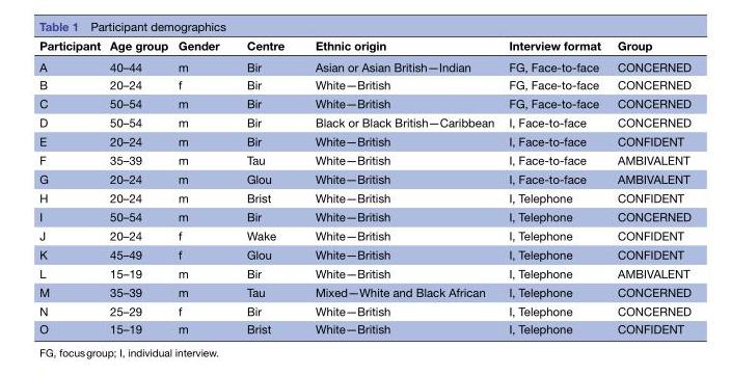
<table><thead><tr><td>Participant</td><td>Age group</td><td>Gender</td><td>Centre</td><td>Ethnic origin</td><td>Interview format</td><td>Group</td></tr></thead><tbody><tr><td>A</td><td>40–44</td><td>m</td><td>Bir</td><td>Asian or Asian British—Indian</td><td>FG, Face-to-face</td><td>CONCERNED</td></tr><tr><td>B</td><td>20–24</td><td>f</td><td>Bir</td><td>White—British</td><td>FG, Face-to-face</td><td>CONCERNED</td></tr><tr><td>C</td><td>50–54</td><td>m</td><td>Bir</td><td>White—British</td><td>FG, Face-to-face</td><td>CONCERNED</td></tr><tr><td>D</td><td>50–54</td><td>m</td><td>Bir</td><td>Black or Black British—Caribbean</td><td>I, Face-to-face</td><td>CONCERNED</td></tr><tr><td>E</td><td>20–24</td><td>m</td><td>Bir</td><td>White—British</td><td>I, Face-to-face</td><td>CONFIDENT</td></tr><tr><td>F</td><td>35–39</td><td>m</td><td>Tau</td><td>White—British</td><td>I, Face-to-face</td><td>AMBIVALENT</td></tr><tr><td>G</td><td>20–24</td><td>m</td><td>Glou</td><td>White—British</td><td>I, Face-to-face</td><td>AMBIVALENT</td></tr><tr><td>H</td><td>20–24</td><td>m</td><td>Brist</td><td>White—British</td><td>I, Telephone</td><td>CONFIDENT</td></tr><tr><td>I</td><td>50–54</td><td>m</td><td>Bir</td><td>White—British</td><td>I, Telephone</td><td>CONCERNED</td></tr><tr><td>J</td><td>20–24</td><td>f</td><td>Wake</td><td>White—British</td><td>I, Telephone</td><td>CONFIDENT</td></tr><tr><td>K</td><td>45–49</td><td>f</td><td>Glou</td><td>White—British</td><td>I, Telephone</td><td>CONFIDENT</td></tr><tr><td>L</td><td>15–19</td><td>m</td><td>Bir</td><td>White—British</td><td>I, Telephone</td><td>AMBIVALENT</td></tr><tr><td>M</td><td>35–39</td><td>m</td><td>Tau</td><td>Mixed—White and Black African</td><td>I, Telephone</td><td>CONCERNED</td></tr><tr><td>N</td><td>25–29</td><td>f</td><td>Bir</td><td>White—British</td><td>I, Telephone</td><td>CONCERNED</td></tr><tr><td>O</td><td>15–19</td><td>m</td><td>Brist</td><td>White—British</td><td>I, Telephone</td><td>CONFIDENT</td></tr></tbody></table>